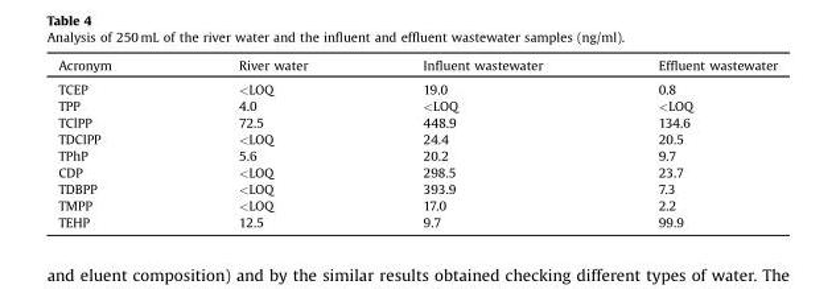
<table><thead><tr><td>Acronym</td><td>River water</td><td>Influent wastewater</td><td>Effluent wastewater</td></tr></thead><tbody><tr><td>TCEP</td><td>&lt;LOQ</td><td>19.0</td><td>0.8</td></tr><tr><td>TPP</td><td>4.0</td><td>&lt;LOQ</td><td>&lt;LOQ</td></tr><tr><td>TClPP</td><td>72.5</td><td>448.9</td><td>134.6</td></tr><tr><td>TDClPP</td><td>&lt;LOQ</td><td>24.4</td><td>20.5</td></tr><tr><td>TPhP</td><td>5.6</td><td>20.2</td><td>9.7</td></tr><tr><td>CDP</td><td>&lt;LOQ</td><td>298.5</td><td>23.7</td></tr><tr><td>TDBPP</td><td>&lt;LOQ</td><td>393.9</td><td>7.3</td></tr><tr><td>TMPP</td><td>&lt;LOQ</td><td>17.0</td><td>2.2</td></tr><tr><td>TEHP</td><td>12.5</td><td>9.7</td><td>99.9</td></tr></tbody></table>